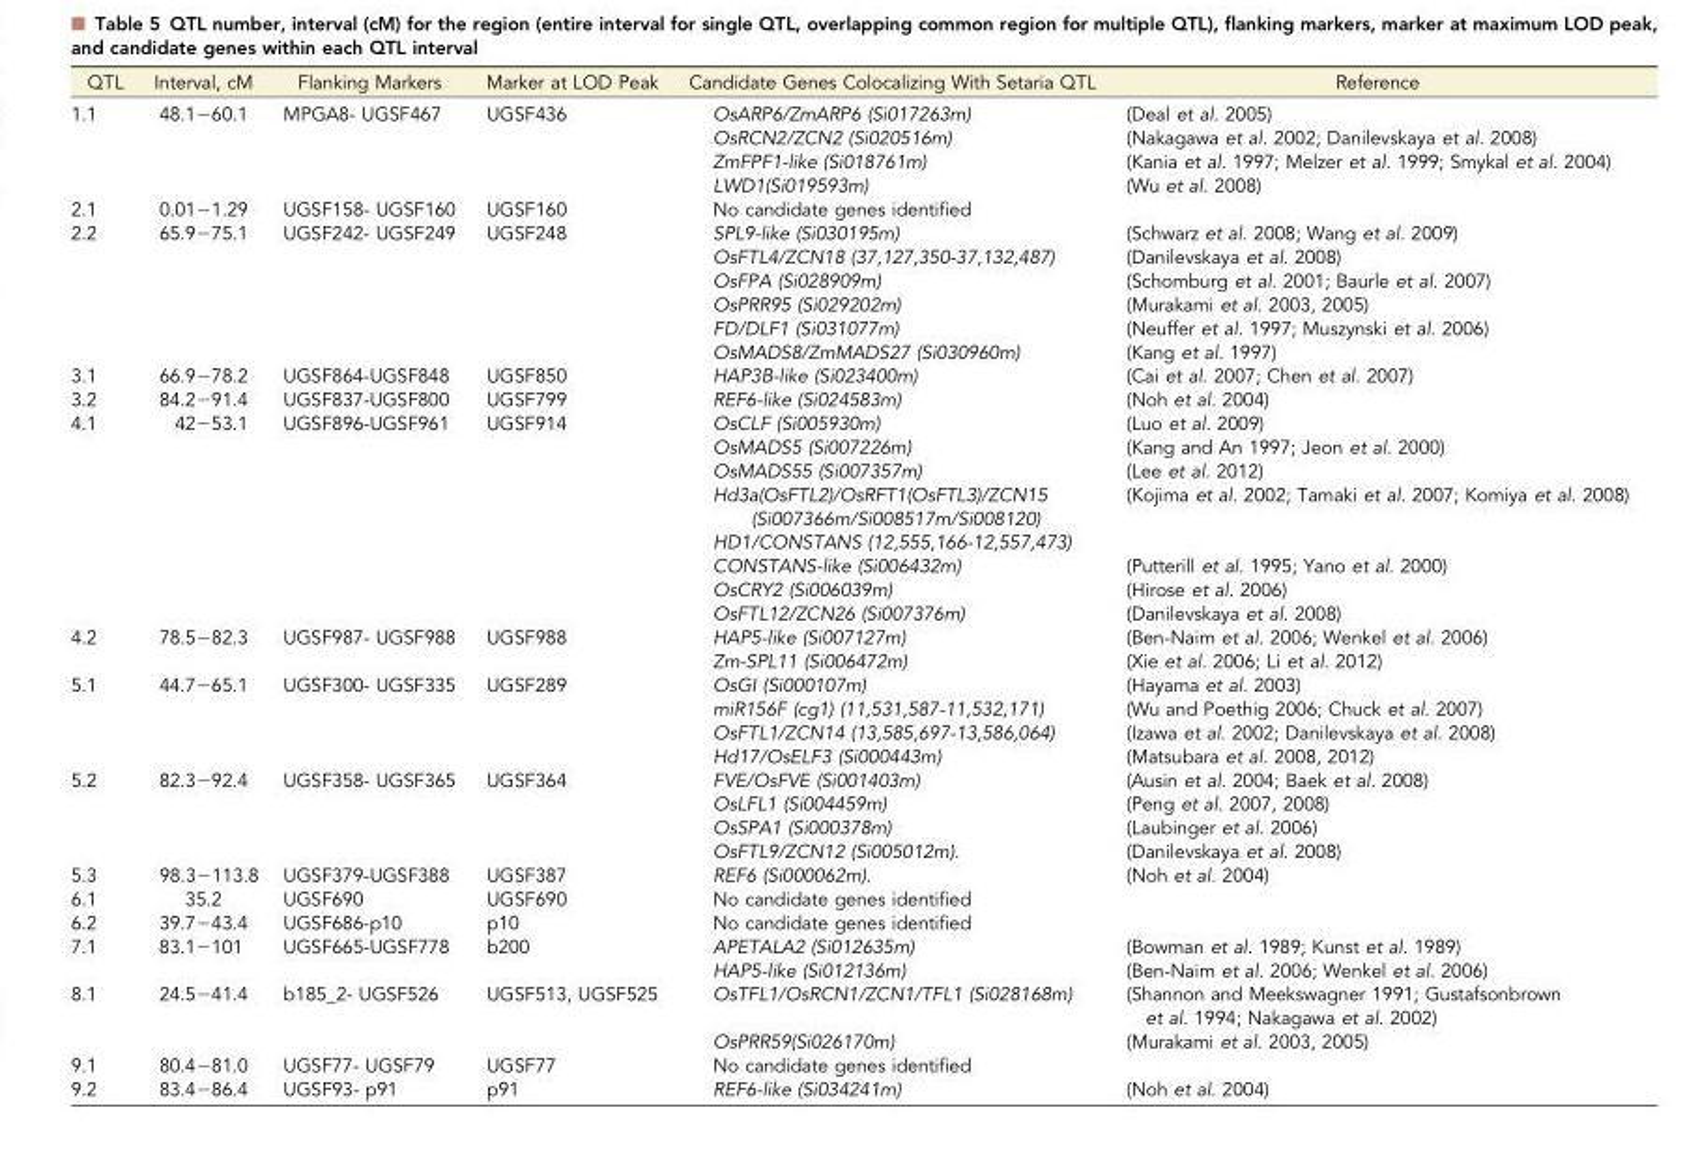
<table><thead><tr><td>QTL</td><td>Interval, cM</td><td>Flanking Markers</td><td>Marker at LOD Peak</td><td>Candidate Genes Colocalizing With Setaria QTL</td><td>Reference</td></tr></thead><tbody><tr><td rowspan="4">1.1</td><td>48.1−60.1</td><td>MPGA8- UGSF467</td><td>UGSF436</td><td>OsARP6/ZmARP6 (Si017263m)</td><td>(Deal et al. 2005)</td></tr><tr><td></td><td></td><td></td><td>OsRCN2/ZCN2 (Si020516m)</td><td>(Nakagawa et al. 2002; Danilevskaya et al. 2008)</td></tr><tr><td></td><td></td><td></td><td>ZmFPF1-like (Si018761m)</td><td>(Kania et al. 1997; Melzer et al. 1999; Smykal et al. 2004)</td></tr><tr><td></td><td></td><td></td><td>LWD1(Si019593m)</td><td>(Wu et al. 2008)</td></tr><tr><td>2.1</td><td>0.01−1.29</td><td>UGSF158- UGSF160</td><td>UGSF160</td><td>No candidate genes identified</td><td></td></tr><tr><td rowspan="6">2.2</td><td>65.9−75.1</td><td>UGSF242- UGSF249</td><td>UGSF248</td><td>SPL9-like (Si030195m)</td><td>(Schwarz et al. 2008; Wang et al. 2009)</td></tr><tr><td></td><td></td><td></td><td>OsFTL4/ZCN18 (37,127,350-37,132,487)</td><td>(Danilevskaya et al. 2008)</td></tr><tr><td></td><td></td><td></td><td>OsFPA (Si028909m)</td><td>(Schomburg et al. 2001; Baurle et al. 2007)</td></tr><tr><td></td><td></td><td></td><td>OsPRR95 (Si029202m)</td><td>(Murakami et al. 2003, 2005)</td></tr><tr><td></td><td></td><td></td><td>FD/DLF1 (Si031077m)</td><td>(Neuffer et al. 1997; Muszynski et al. 2006)</td></tr><tr><td></td><td></td><td></td><td>OsMADS8/ZmMADS27 (Si030960m)</td><td>(Kang et al. 1997)</td></tr><tr><td>3.1</td><td>66.9−78.2</td><td>UGSF864-UGSF848</td><td>UGSF850</td><td>HAP3B-like (Si023400m)</td><td>(Cai et al. 2007; Chen et al. 2007)</td></tr><tr><td>3.2</td><td>84.2−91.4</td><td>UGSF837-UGSF800</td><td>UGSF799</td><td>REF6-like (Si024583m)</td><td>(Noh et al. 2004)</td></tr><tr><td rowspan="8">4.1</td><td>42−53.1</td><td>UGSF896-UGSF961</td><td>UGSF914</td><td>OsCLF (Si005930m)</td><td>(Luo et al. 2009)</td></tr><tr><td></td><td></td><td></td><td>OsMADS5 (Si007226m)</td><td>(Kang and An 1997; Jeon et al. 2000)</td></tr><tr><td></td><td></td><td></td><td>OsMADS55 (Si007357m)</td><td>(Lee et al. 2012)</td></tr><tr><td></td><td></td><td></td><td>Hd3a(OsFTL2)/OsRFT1(OsFTL3)/ZCN15 (Si007366m/Si008517m/Si008120)</td><td>(Kojima et al. 2002; Tamaki et al. 2007; Komiya et al. 2008)</td></tr><tr><td></td><td></td><td></td><td>HD1/CONSTANS (12,555,166-12,557,473)</td><td></td></tr><tr><td></td><td></td><td></td><td>CONSTANS-like (Si006432m)</td><td>(Putterill et al. 1995; Yano et al. 2000)</td></tr><tr><td></td><td></td><td></td><td>OsCRY2 (Si006039m)</td><td>(Hirose et al. 2006)</td></tr><tr><td></td><td></td><td></td><td>OsFTL12/ZCN26 (Si007376m)</td><td>(Danilevskaya et al. 2008)</td></tr><tr><td rowspan="2">4.2</td><td>78.5−82.3</td><td>UGSF987- UGSF988</td><td>UGSF988</td><td>HAP5-like (Si007127m)</td><td>(Ben-Naim et al. 2006; Wenkel et al. 2006)</td></tr><tr><td></td><td></td><td></td><td>Zm-SPL11 (Si006472m)</td><td>(Xie et al. 2006; Li et al. 2012)</td></tr><tr><td rowspan="4">5.1</td><td>44.7−65.1</td><td>UGSF300- UGSF335</td><td>UGSF289</td><td>OsGI (Si000107m)</td><td>(Hayama et al. 2003)</td></tr><tr><td></td><td></td><td></td><td>miR156F (cg1) (11,531,587-11,532,171)</td><td>(Wu and Poethig 2006; Chuck et al. 2007)</td></tr><tr><td></td><td></td><td></td><td>OsFTL1/ZCN14 (13,585,697-13,586,064)</td><td>(Izawa et al. 2002; Danilevskaya et al. 2008)</td></tr><tr><td></td><td></td><td></td><td>Hd17/OsELF3 (Si000443m)</td><td>(Matsubara et al. 2008, 2012)</td></tr><tr><td rowspan="4">5.2</td><td>82.3−92.4</td><td>UGSF358- UGSF365</td><td>UGSF364</td><td>FVE/OsFVE (Si001403m)</td><td>(Ausin et al. 2004; Baek et al. 2008)</td></tr><tr><td></td><td></td><td></td><td>OsLFL1 (Si004459m)</td><td>(Peng et al. 2007, 2008)</td></tr><tr><td></td><td></td><td></td><td>OsSPA1 (Si000378m)</td><td>(Laubinger et al. 2006)</td></tr><tr><td></td><td></td><td></td><td>OsFTL9/ZCN12 (Si005012m).</td><td>(Danilevskaya et al. 2008)</td></tr><tr><td>5.3</td><td>98.3−113.8</td><td>UGSF379-UGSF388</td><td>UGSF387</td><td>REF6 (Si000062m).</td><td>(Noh et al. 2004)</td></tr><tr><td>6.1</td><td>35.2</td><td>UGSF690</td><td>UGSF690</td><td>No candidate genes identified</td><td></td></tr><tr><td>6.2</td><td>39.7−43.4</td><td>UGSF686-p10</td><td>p10</td><td>No candidate genes identified</td><td></td></tr><tr><td rowspan="2">7.1</td><td>83.1−101</td><td>UGSF665-UGSF778</td><td>b200</td><td>APETALA2 (Si012635m)</td><td>(Bowman et al. 1989; Kunst et al. 1989)</td></tr><tr><td></td><td></td><td></td><td>HAP5-like (Si012136m)</td><td>(Ben-Naim et al. 2006; Wenkel et al. 2006)</td></tr><tr><td rowspan="2">8.1</td><td>24.5−41.4</td><td>b185_2- UGSF526</td><td>UGSF513, UGSF525</td><td>OsTFL1/OsRCN1/ZCN1/TFL1 (Si028168m)</td><td>(Shannon and Meekswagner 1991; Gustafsonbrown et al. 1994; Nakagawa et al. 2002)</td></tr><tr><td></td><td></td><td></td><td>OsPRR59(Si026170m)</td><td>(Murakami et al. 2003, 2005)</td></tr><tr><td>9.1</td><td>80.4−81.0</td><td>UGSF77- UGSF79</td><td>UGSF77</td><td>No candidate genes identified</td><td></td></tr><tr><td>9.2</td><td>83.4−86.4</td><td>UGSF93- p91</td><td>p91</td><td>REF6-like (Si034241m)</td><td>(Noh et al. 2004)</td></tr></tbody></table>